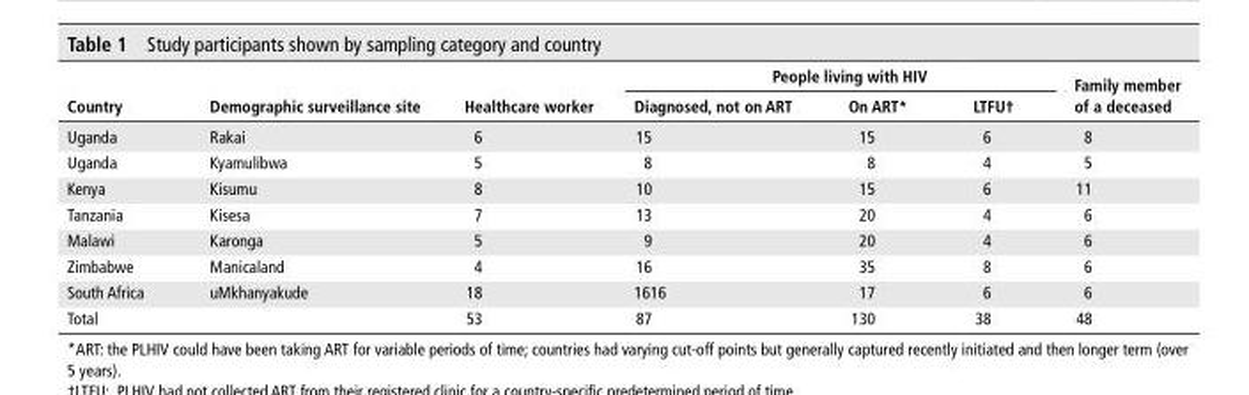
<table><thead><tr><td rowspan="2">country</td><td rowspan="2">demographic surveillance site</td><td rowspan="2">Healthcare worker</td><td colspan="3">People living with HIV</td><td rowspan="2">Family member of a deceased</td></tr><tr><td>diagnosed, not on Art</td><td>On Art*</td><td>LtFu†</td></tr></thead><tbody><tr><td>Uganda</td><td>Rakai</td><td>6</td><td>15</td><td>15</td><td>6</td><td>8</td></tr><tr><td>Uganda</td><td>Kyamulibwa</td><td>5</td><td>8</td><td>8</td><td>4</td><td>5</td></tr><tr><td>Kenya</td><td>Kisumu</td><td>8</td><td>10</td><td>15</td><td>6</td><td>11</td></tr><tr><td>Tanzania</td><td>Kisesa</td><td>7</td><td>13</td><td>20</td><td>4</td><td>6</td></tr><tr><td>Malawi</td><td>Karonga</td><td>5</td><td>9</td><td>20</td><td>4</td><td>6</td></tr><tr><td>Zimbabwe</td><td>Manicaland</td><td>4</td><td>16</td><td>35</td><td>8</td><td>6</td></tr><tr><td>South Africa</td><td>uMkhanyakude</td><td>18</td><td>1616</td><td>17</td><td>6</td><td>6</td></tr><tr><td colspan="2">Total</td><td>53</td><td>87</td><td>130</td><td>38</td><td>48</td></tr></tbody></table>